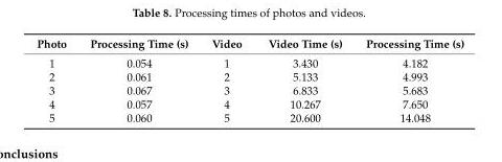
<table><thead><tr><td>Photo</td><td>Processing Time (s)</td><td>Video</td><td>Video Time (s)</td><td>Processing Time (s)</td></tr></thead><tbody><tr><td>1</td><td>0.054</td><td>1</td><td>3.430</td><td>4.182</td></tr><tr><td>2</td><td>0.061</td><td>2</td><td>5.133</td><td>4.993</td></tr><tr><td>3</td><td>0.067</td><td>3</td><td>6.833</td><td>5.683</td></tr><tr><td>4</td><td>0.057</td><td>4</td><td>10.267</td><td>7.650</td></tr><tr><td>5</td><td>0.060</td><td>5</td><td>20.600</td><td>14.048</td></tr></tbody></table>